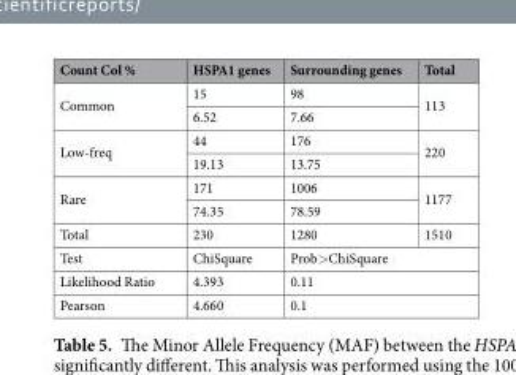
<table><thead><tr><td>Count Col %</td><td>HSPA1 genes</td><td>Surrounding genes</td><td>Total</td></tr></thead><tbody><tr><td rowspan="2">Common</td><td>15</td><td>98</td><td rowspan="2">113</td></tr><tr><td>6.52</td><td>7.66</td></tr><tr><td rowspan="2">Low-freq</td><td>44</td><td>176</td><td rowspan="2">220</td></tr><tr><td>19.13</td><td>13.75</td></tr><tr><td rowspan="2">Rare</td><td>171</td><td>1006</td><td rowspan="2">1177</td></tr><tr><td>74.35</td><td>78.59</td></tr><tr><td>Total</td><td>230</td><td>1280</td><td>1510</td></tr><tr><td>Test</td><td>ChiSquare</td><td colspan="2">Prob&gt;ChiSquare</td></tr><tr><td>Likelihood Ratio</td><td>4.393</td><td colspan="2">0.11</td></tr><tr><td>Pearson</td><td>4.660</td><td colspan="2">0.1</td></tr></tbody></table>